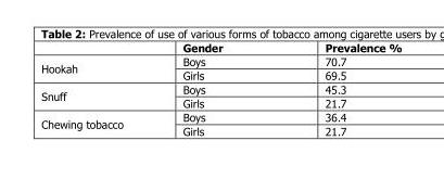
<table><thead><tr><td></td><td>Gender</td><td>Prevalence %</td></tr></thead><tbody><tr><td rowspan="2">Hookah</td><td>Boys</td><td>70.7</td></tr><tr><td>Girls</td><td>69.5</td></tr><tr><td rowspan="2">Snuff</td><td>Boys</td><td>45.3</td></tr><tr><td>Girls</td><td>21.7</td></tr><tr><td rowspan="2">Chewing tobacco</td><td>Boys</td><td>36.4</td></tr><tr><td>Girls</td><td>21.7</td></tr></tbody></table>